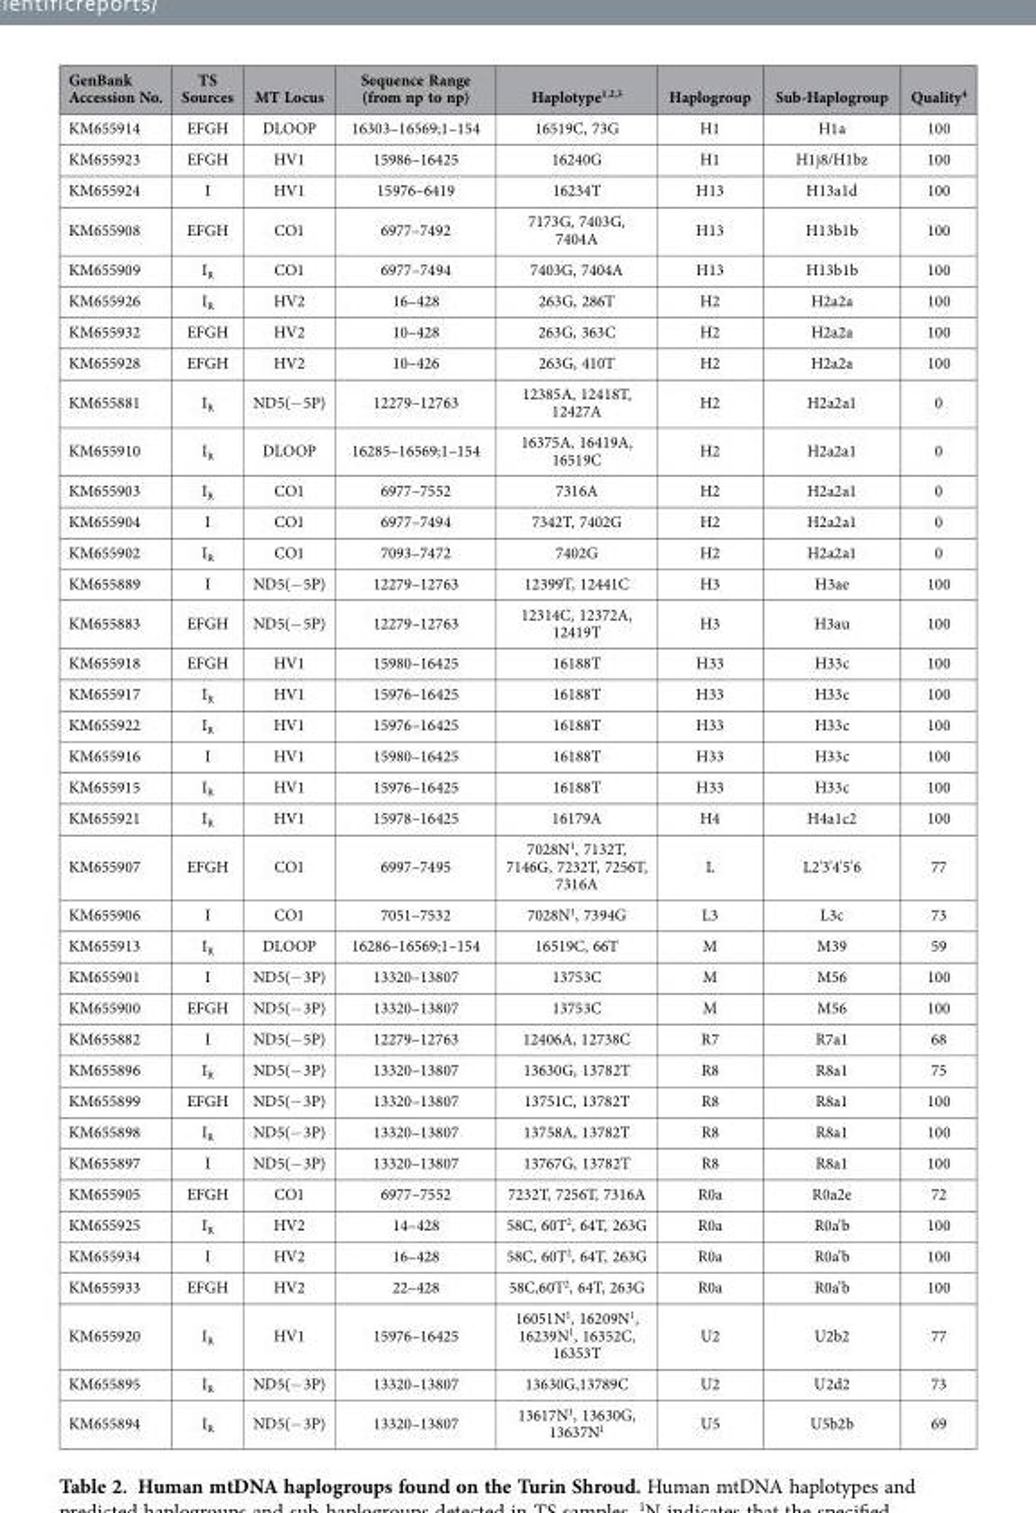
<table><thead><tr><td>GenBank Accession No.</td><td>TS Sources</td><td>MT Locus</td><td>Sequence Range (from np to np)</td><td>Haplotype<sup>1</sup>,<sup>2</sup>,<sup>3</sup></td><td>Haplogroup</td><td>Sub-Haplogroup</td><td>Quality<sup>4</sup></td></tr></thead><tbody><tr><td>KM655914</td><td>EFGH</td><td>DLOOP</td><td>16303–16569;1–154</td><td>16519C, 73G</td><td>H1</td><td>H1a</td><td>100</td></tr><tr><td>KM655923</td><td>EFGH</td><td>HV1</td><td>15986–16425</td><td>16240G</td><td>H1</td><td>H1j8/H1bz</td><td>100</td></tr><tr><td>KM655924</td><td>I</td><td>HV1</td><td>15976–6419</td><td>16234T</td><td>H13</td><td>H13a1d</td><td>100</td></tr><tr><td>KM655908</td><td>EFGH</td><td>CO1</td><td>6977–7492</td><td>7173G, 7403G, 7404A</td><td>H13</td><td>H13b1b</td><td>100</td></tr><tr><td>KM655909</td><td>I<sub>R</sub></td><td>CO1</td><td>6977–7494</td><td>7403G, 7404A</td><td>H13</td><td>H13b1b</td><td>100</td></tr><tr><td>KM655926</td><td>I<sub>R</sub></td><td>HV2</td><td>16–428</td><td>263G, 286T</td><td>H2</td><td>H2a2a</td><td>100</td></tr><tr><td>KM655932</td><td>EFGH</td><td>HV2</td><td>10–428</td><td>263G, 363C</td><td>H2</td><td>H2a2a</td><td>100</td></tr><tr><td>KM655928</td><td>EFGH</td><td>HV2</td><td>10–426</td><td>263G, 410T</td><td>H2</td><td>H2a2a</td><td>100</td></tr><tr><td>KM655881</td><td>I<sub>R</sub></td><td>ND5(− 5P)</td><td>12279–12763</td><td>12385A, 12418T, 12427A</td><td>H2</td><td>H2a2a1</td><td>0</td></tr><tr><td>KM655910</td><td>I<sub>R</sub></td><td>DLOOP</td><td>16285–16569;1–154</td><td>16375A, 16419A, 16519C</td><td>H2</td><td>H2a2a1</td><td>0</td></tr><tr><td>KM655903</td><td>I<sub>R</sub></td><td>CO1</td><td>6977–7552</td><td>7316A</td><td>H2</td><td>H2a2a1</td><td>0</td></tr><tr><td>KM655904</td><td>I</td><td>CO1</td><td>6977–7494</td><td>7342T, 7402G</td><td>H2</td><td>H2a2a1</td><td>0</td></tr><tr><td>KM655902</td><td>I<sub>R</sub></td><td>CO1</td><td>7093–7472</td><td>7402G</td><td>H2</td><td>H2a2a1</td><td>0</td></tr><tr><td>KM655889</td><td>I</td><td>ND5(− 5P)</td><td>12279–12763</td><td>12399T, 12441C</td><td>H3</td><td>H3ae</td><td>100</td></tr><tr><td>KM655883</td><td>EFGH</td><td>ND5(− 5P)</td><td>12279–12763</td><td>12314C, 12372A, 12419T</td><td>H3</td><td>H3au</td><td>100</td></tr><tr><td>KM655918</td><td>EFGH</td><td>HV1</td><td>15980–16425</td><td>16188T</td><td>H33</td><td>H33c</td><td>100</td></tr><tr><td>KM655917</td><td>I<sub>R</sub></td><td>HV1</td><td>15976–16425</td><td>16188T</td><td>H33</td><td>H33c</td><td>100</td></tr><tr><td>KM655922</td><td>I<sub>R</sub></td><td>HV1</td><td>15976–16425</td><td>16188T</td><td>H33</td><td>H33c</td><td>100</td></tr><tr><td>KM655916</td><td>I</td><td>HV1</td><td>15980–16425</td><td>16188T</td><td>H33</td><td>H33c</td><td>100</td></tr><tr><td>KM655915</td><td>I<sub>R</sub></td><td>HV1</td><td>15976–16425</td><td>16188T</td><td>H33</td><td>H33c</td><td>100</td></tr><tr><td>KM655921</td><td>I<sub>R</sub></td><td>HV1</td><td>15978–16425</td><td>16179A</td><td>H4</td><td>H4a1c2</td><td>100</td></tr><tr><td>KM655907</td><td>EFGH</td><td>CO1</td><td>6997–7495</td><td>7028N<sup>1</sup>, 7132T, 7146G, 7232T, 7256T, 7316A</td><td>L</td><td>L2&#x27;3&#x27;4&#x27;5&#x27;6</td><td>77</td></tr><tr><td>KM655906</td><td>I</td><td>CO1</td><td>7051–7532</td><td>7028N<sup>1</sup>, 7394G</td><td>L3</td><td>L3c</td><td>73</td></tr><tr><td>KM655913</td><td>I<sub>R</sub></td><td>DLOOP</td><td>16286–16569;1–154</td><td>16519C, 66T</td><td>M</td><td>M39</td><td>59</td></tr><tr><td>KM655901</td><td>I</td><td>ND5(− 3P)</td><td>13320–13807</td><td>13753C</td><td>M</td><td>M56</td><td>100</td></tr><tr><td>KM655900</td><td>EFGH</td><td>ND5(− 3P)</td><td>13320–13807</td><td>13753C</td><td>M</td><td>M56</td><td>100</td></tr><tr><td>KM655882</td><td>I</td><td>ND5(− 5P)</td><td>12279–12763</td><td>12406A, 12738C</td><td>R7</td><td>R7a1</td><td>68</td></tr><tr><td>KM655896</td><td>I<sub>R</sub></td><td>ND5(− 3P)</td><td>13320–13807</td><td>13630G, 13782T</td><td>R8</td><td>R8a1</td><td>75</td></tr><tr><td>KM655899</td><td>EFGH</td><td>ND5(− 3P)</td><td>13320–13807</td><td>13751C, 13782T</td><td>R8</td><td>R8a1</td><td>100</td></tr><tr><td>KM655898</td><td>I<sub>R</sub></td><td>ND5(− 3P)</td><td>13320–13807</td><td>13758A, 13782T</td><td>R8</td><td>R8a1</td><td>100</td></tr><tr><td>KM655897</td><td>I</td><td>ND5(− 3P)</td><td>13320–13807</td><td>13767G, 13782T</td><td>R8</td><td>R8a1</td><td>100</td></tr><tr><td>KM655905</td><td>EFGH</td><td>CO1</td><td>6977–7552</td><td>7232T, 7256T, 7316A</td><td>R0a</td><td>R0a2e</td><td>72</td></tr><tr><td>KM655925</td><td>I<sub>R</sub></td><td>HV2</td><td>14–428</td><td>58C, 60T<sup>2</sup>, 64T, 263G</td><td>R0a</td><td>R0a’b</td><td>100</td></tr><tr><td>KM655934</td><td>I</td><td>HV2</td><td>16–428</td><td>58C, 60T<sup>2</sup>, 64T, 263G</td><td>R0a</td><td>R0a’b</td><td>100</td></tr><tr><td>KM655933</td><td>EFGH</td><td>HV2</td><td>22–428</td><td>58C,60T<sup>2</sup>, 64T, 263G</td><td>R0a</td><td>R0a’b</td><td>100</td></tr><tr><td>KM655920</td><td>I<sub>R</sub></td><td>HV1</td><td>15976–16425</td><td>16051N<sup>1</sup>, 16209N<sup>1</sup>, 16239N<sup>1</sup>, 16352C, 16353T</td><td>U2</td><td>U2b2</td><td>77</td></tr><tr><td>KM655895</td><td>I<sub>R</sub></td><td>ND5(− 3P)</td><td>13320–13807</td><td>13630G,13789C</td><td>U2</td><td>U2d2</td><td>73</td></tr><tr><td>KM655894</td><td>I<sub>R</sub></td><td>ND5(− 3P)</td><td>13320–13807</td><td>13617N<sup>1</sup>, 13630G, 13637N<sup>1</sup></td><td>U5</td><td>U5b2b</td><td>69</td></tr></tbody></table>